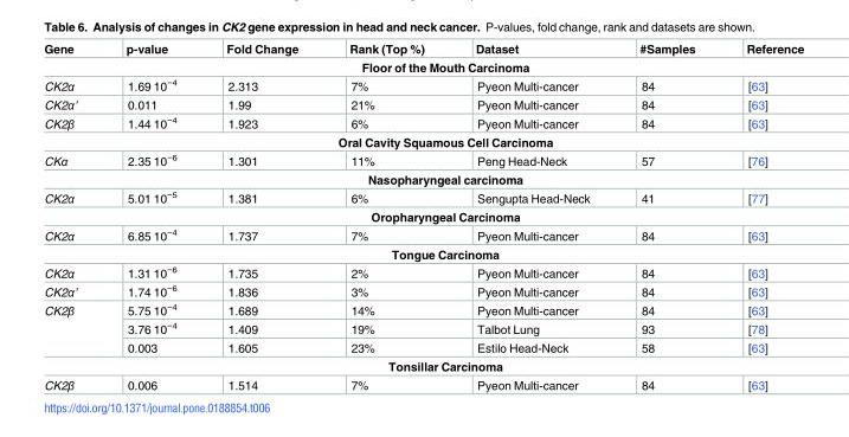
<table><thead><tr><td>Gene</td><td>p-value</td><td>Fold Change</td><td>Rank (Top %)</td><td>Dataset</td><td>#Samples</td><td>Reference</td></tr></thead><tbody><tr><td colspan="7">Floor of the Mouth Carcinoma</td></tr><tr><td>CK2α</td><td>1.69 10<sup>−4</sup></td><td>2.313</td><td>7%</td><td>Pyeon Multi-cancer</td><td>84</td><td>[63]</td></tr><tr><td>CK2α’</td><td>0.011</td><td>1.99</td><td>21%</td><td>Pyeon Multi-cancer</td><td>84</td><td>[63]</td></tr><tr><td>CK2β</td><td>1.44 10<sup>−4</sup></td><td>1.923</td><td>6%</td><td>Pyeon Multi-cancer</td><td>84</td><td>[63]</td></tr><tr><td colspan="7">Oral Cavity Squamous Cell Carcinoma</td></tr><tr><td>CKα</td><td>2.35 10<sup>−6</sup></td><td>1.301</td><td>11%</td><td>Peng Head-Neck</td><td>57</td><td>[76]</td></tr><tr><td colspan="7">Nasopharyngeal carcinoma</td></tr><tr><td>CK2α</td><td>5.01 10<sup>−5</sup></td><td>1.381</td><td>6%</td><td>Sengupta Head-Neck</td><td>41</td><td>[77]</td></tr><tr><td colspan="7">Oropharyngeal Carcinoma</td></tr><tr><td>CK2α</td><td>6.85 10<sup>−4</sup></td><td>1.737</td><td>7%</td><td>Pyeon Multi-cancer</td><td>84</td><td>[63]</td></tr><tr><td colspan="7">Tongue Carcinoma</td></tr><tr><td>CK2α</td><td>1.31 10<sup>−6</sup></td><td>1.735</td><td>2%</td><td>Pyeon Multi-cancer</td><td>84</td><td>[63]</td></tr><tr><td>CK2α’</td><td>1.74 10<sup>−6</sup></td><td>1.836</td><td>3%</td><td>Pyeon Multi-cancer</td><td>84</td><td>[63]</td></tr><tr><td rowspan="3">CK2β</td><td>5.75 10<sup>−4</sup></td><td>1.689</td><td>14%</td><td>Pyeon Multi-cancer</td><td>84</td><td>[63]</td></tr><tr><td>3.76 10<sup>−4</sup></td><td>1.409</td><td>19%</td><td>Talbot Lung</td><td>93</td><td>[78]</td></tr><tr><td>0.003</td><td>1.605</td><td>23%</td><td>Estilo Head-Neck</td><td>58</td><td>[63]</td></tr><tr><td colspan="7">Tonsillar Carcinoma</td></tr><tr><td>CK2β</td><td>0.006</td><td>1.514</td><td>7%</td><td>Pyeon Multi-cancer</td><td>84</td><td>[63]</td></tr></tbody></table>